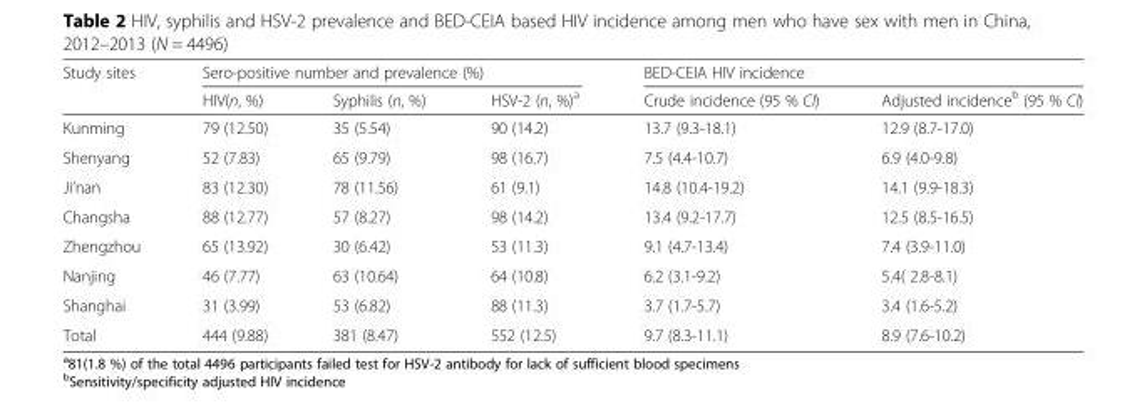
<table><thead><tr><td rowspan="2">Study sites</td><td colspan="3">Sero-positive number and prevalence (%)</td><td colspan="2">BED-CEIA HIV incidence</td></tr><tr><td>HIV(n, %)</td><td>Syphilis (n, %)</td><td>HSV-2 (n, %)<sup>a</sup></td><td>Crude incidence (95 % CI)</td><td>Adjusted incidence<sup>b</sup> (95 % CI)</td></tr></thead><tbody><tr><td>Kunming</td><td>79 (12.50)</td><td>35 (5.54)</td><td>90 (14.2)</td><td>13.7 (9.3-18.1)</td><td>12.9 (8.7-17.0)</td></tr><tr><td>Shenyang</td><td>52 (7.83)</td><td>65 (9.79)</td><td>98 (16.7)</td><td>7.5 (4.4-10.7)</td><td>6.9 (4.0-9.8)</td></tr><tr><td>Ji’nan</td><td>83 (12.30)</td><td>78 (11.56)</td><td>61 (9.1)</td><td>14.8 (10.4-19.2)</td><td>14.1 (9.9-18.3)</td></tr><tr><td>Changsha</td><td>88 (12.77)</td><td>57 (8.27)</td><td>98 (14.2)</td><td>13.4 (9.2-17.7)</td><td>12.5 (8.5-16.5)</td></tr><tr><td>Zhengzhou</td><td>65 (13.92)</td><td>30 (6.42)</td><td>53 (11.3)</td><td>9.1 (4.7-13.4)</td><td>7.4 (3.9-11.0)</td></tr><tr><td>Nanjing</td><td>46 (7.77)</td><td>63 (10.64)</td><td>64 (10.8)</td><td>6.2 (3.1-9.2)</td><td>5.4( 2.8-8.1)</td></tr><tr><td>Shanghai</td><td>31 (3.99)</td><td>53 (6.82)</td><td>88 (11.3)</td><td>3.7 (1.7-5.7)</td><td>3.4 (1.6-5.2)</td></tr><tr><td>Total</td><td>444 (9.88)</td><td>381 (8.47)</td><td>552 (12.5)</td><td>9.7 (8.3-11.1)</td><td>8.9 (7.6-10.2)</td></tr></tbody></table>